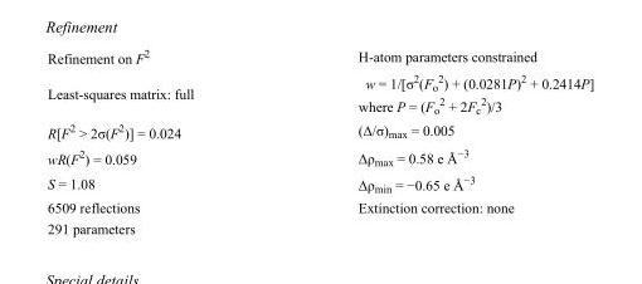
<table><tbody><tr><td>Refinement on F<sup>2</sup></td><td>H-atom parameters constrained</td></tr><tr><td>Least-squares matrix: full</td><td>w = 1/[σ<sup>2</sup>(F<sub>o</sub> <sup>2</sup>) + (0.0281P)<sup>2</sup> + 0.2414P] where P = (F<sub>o</sub> <sup>2</sup> + 2F<sub>c</sub> <sup>2</sup>)/3</td></tr><tr><td>R[F<sup>2</sup> &gt; 2σ(F<sup>2</sup>)] = 0.024</td><td>(Δ/σ)<sub>max</sub> = 0.005</td></tr><tr><td>wR(F<sup>2</sup>) = 0.059</td><td>Δρ<sub>max</sub> = 0.58 e Å<sup>−3</sup></td></tr><tr><td>S = 1.08</td><td>Δρ<sub>min</sub> = −0.65 e Å<sup>−3</sup></td></tr><tr><td>6509 reflections</td><td>Extinction correction: none</td></tr><tr><td>291 parameters</td><td></td></tr></tbody></table>